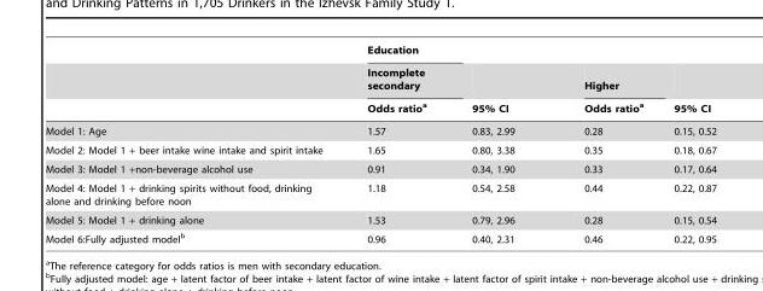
<table><thead><tr><td rowspan="3"></td><td rowspan="3">Education Incomplete secondary Odds ratio<sup>a</sup></td><td rowspan="3">95% CI</td><td rowspan="3">Higher Odds ratio<sup>a</sup></td><td rowspan="3">95% CI</td></tr><tr></tr><tr></tr></thead><tbody><tr><td>Model 1: Age</td><td>1.57</td><td>0.83, 2.99</td><td>0.28</td><td>0.15, 0.52</td></tr><tr><td>Model 2: Model 1 + beer intake wine intake and spirit intake</td><td>1.65</td><td>0.80, 3.38</td><td>0.35</td><td>0.18, 0.67</td></tr><tr><td>Model 3: Model 1 +non-beverage alcohol use</td><td>0.91</td><td>0.34, 1.90</td><td>0.33</td><td>0.17, 0.64</td></tr><tr><td>Model 4: Model 1 + drinking spirits without food, drinking alone and drinking before noon</td><td>1.18</td><td>0.54, 2.58</td><td>0.44</td><td>0.22, 0.87</td></tr><tr><td>Model 5: Model 1 + drinking alone</td><td>1.53</td><td>0.79, 2.96</td><td>0.28</td><td>0.15, 0.54</td></tr><tr><td>Model 6:Fully adjusted model<sup>b</sup></td><td>0.96</td><td>0.40, 2.31</td><td>0.46</td><td>0.22, 0.95</td></tr></tbody></table>